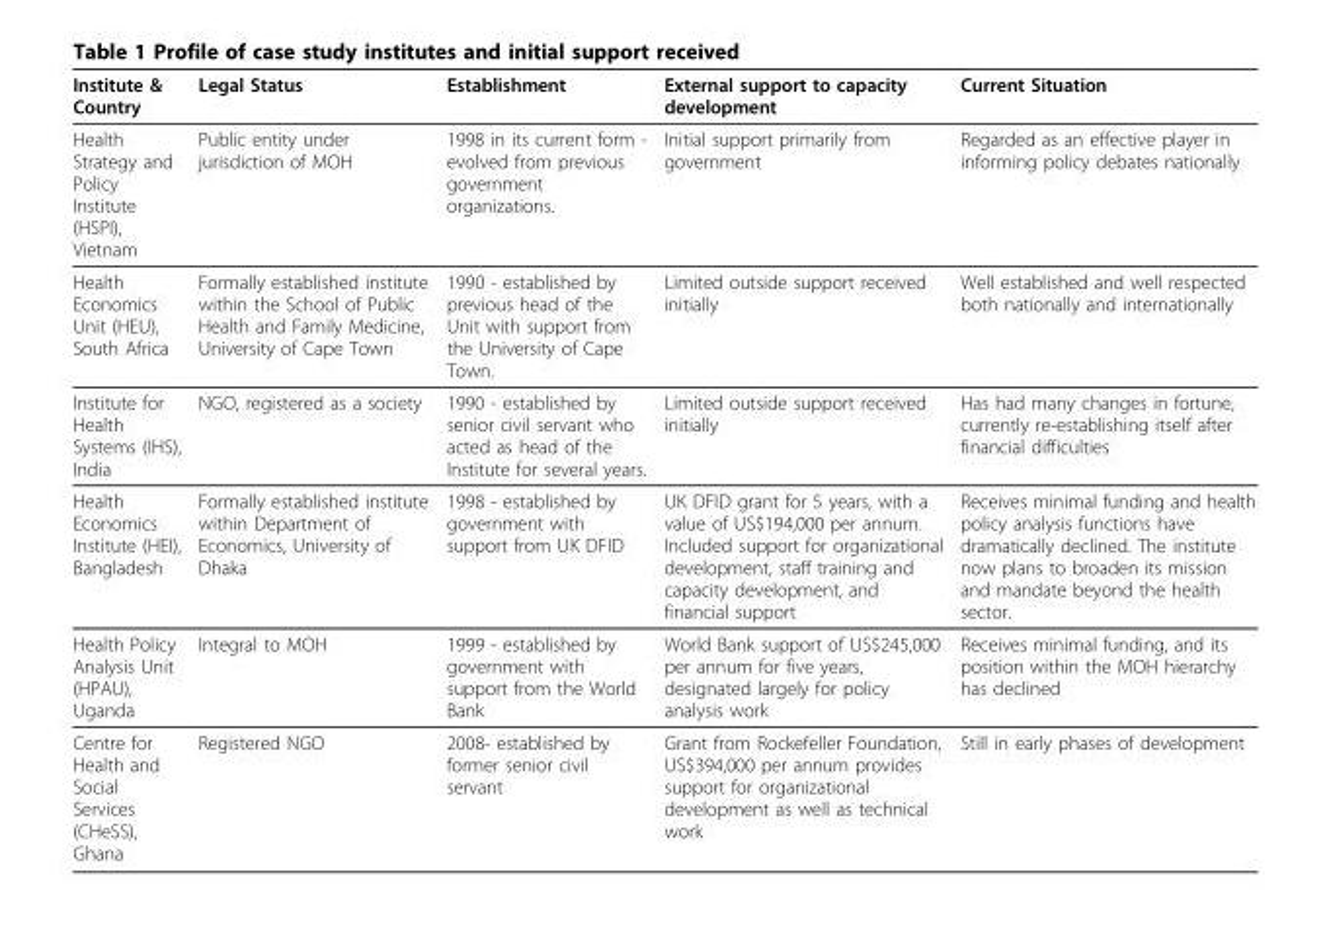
<table><thead><tr><td>Institute &amp; Country</td><td>Legal Status</td><td>Establishment</td><td>External support to capacity development</td><td>Current Situation</td></tr></thead><tbody><tr><td>Health Strategy and Policy Institute (HSPI), Vietnam</td><td>Public entity under jurisdiction of MOH</td><td>1998 in its current form - evolved from previous government organizations.</td><td>Initial support primarily from government</td><td>Regarded as an effective player in informing policy debates nationally</td></tr><tr><td>Health Economics Unit (HEU), South Africa</td><td>Formally established institute within the School of Public Health and Family Medicine, University of Cape Town</td><td>1990 - established by previous head of the Unit with support from the University of Cape Town.</td><td>Limited outside support received initially</td><td>Well established and well respected both nationally and internationally</td></tr><tr><td>Institute for Health Systems (IHS), India</td><td>NGO, registered as a society</td><td>1990 - established by senior civil servant who acted as head of the Institute for several years.</td><td>Limited outside support received initially</td><td>Has had many changes in fortune, currently re-establishing itself after financial difficulties</td></tr><tr><td>Health Economics Institute (HEI), Bangladesh</td><td>Formally established institute within Department of Economics, University of Dhaka</td><td>1998 - established by government with support from UK DFID</td><td>UK DFID grant for 5 years, with a value of US$194,000 per annum. Included support for organizational development, staff training and capacity development, and financial support</td><td>Receives minimal funding and health policy analysis functions have dramatically declined. The institute now plans to broaden its mission and mandate beyond the health sector.</td></tr><tr><td>Health Policy Analysis Unit (HPAU), Uganda</td><td>Integral to MOH</td><td>1999 - established by government with support from the World Bank</td><td>World Bank support of US$245,000 per annum for five years, designated largely for policy analysis work</td><td>Receives minimal funding, and its position within the MOH hierarchy has declined</td></tr><tr><td>Centre for Health and Social Services (CHeSS), Ghana</td><td>Registered NGO</td><td>2008- established by former senior civil servant</td><td>Grant from Rockefeller Foundation, US$394,000 per annum provides support for organizational development as well as technical work</td><td>Still in early phases of development</td></tr></tbody></table>